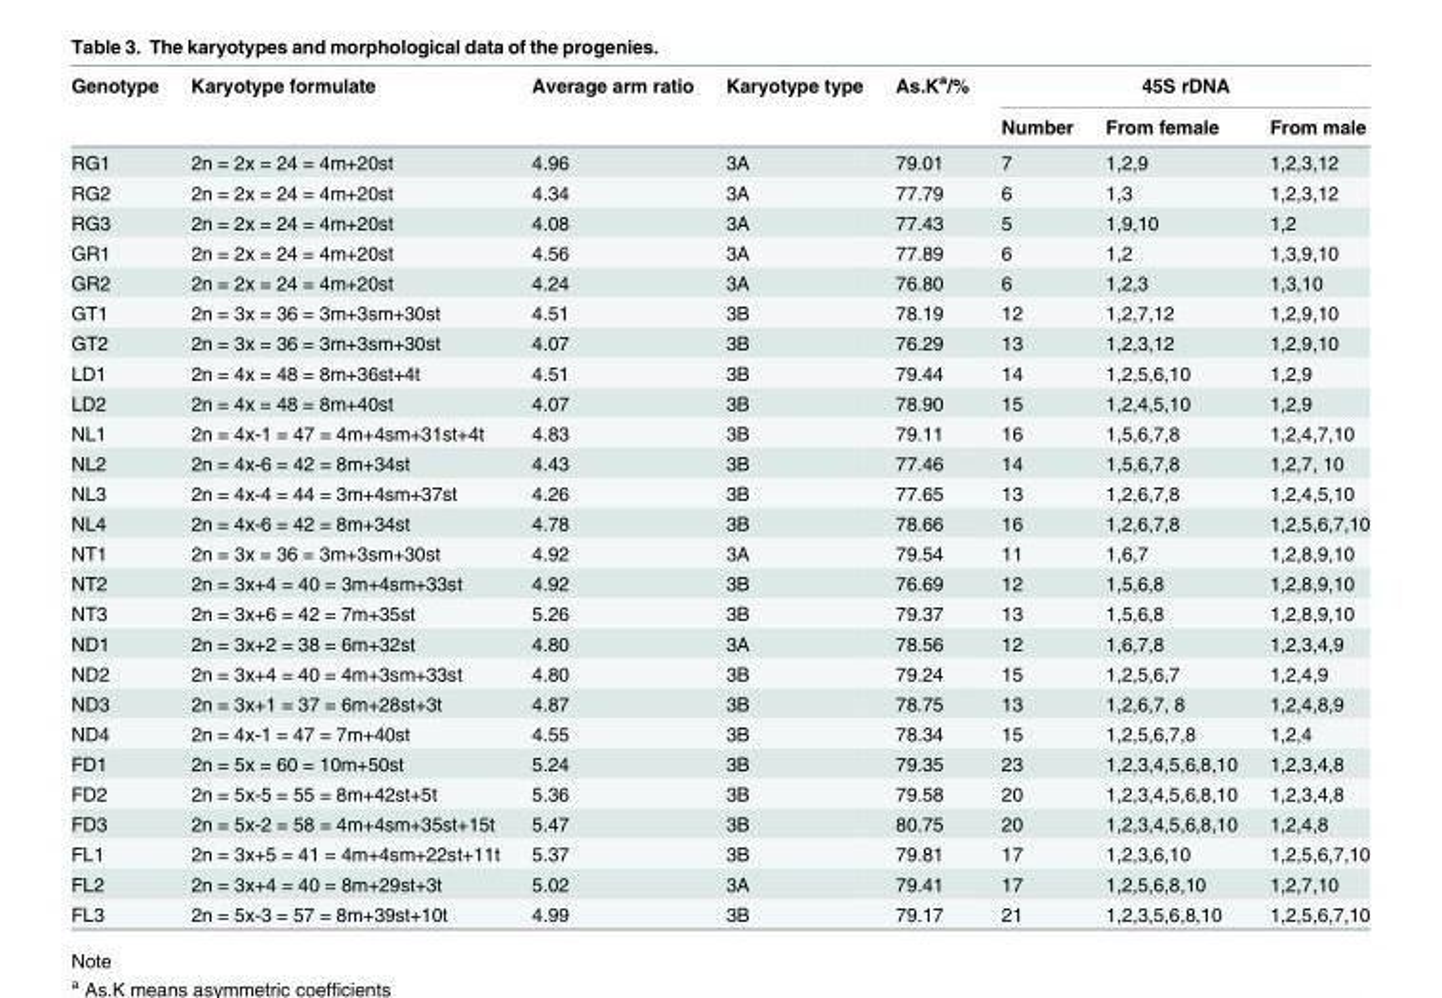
<table><thead><tr><td rowspan="2">Genotype</td><td rowspan="2">Karyotype formulate</td><td rowspan="2">Average arm ratio</td><td rowspan="2">Karyotype type</td><td rowspan="2">As.K<sup>a</sup>/%</td><td colspan="3">45S rDNA</td></tr><tr><td>Number</td><td>From female</td><td>From male</td></tr></thead><tbody><tr><td>RG1</td><td>2n = 2x = 24 = 4m+20st</td><td>4.96</td><td>3A</td><td>79.01</td><td>7</td><td>1,2,9</td><td>1,2,3,12</td></tr><tr><td>RG2</td><td>2n = 2x = 24 = 4m+20st</td><td>4.34</td><td>3A</td><td>77.79</td><td>6</td><td>1,3</td><td>1,2,3,12</td></tr><tr><td>RG3</td><td>2n = 2x = 24 = 4m+20st</td><td>4.08</td><td>3A</td><td>77.43</td><td>5</td><td>1,9,10</td><td>1,2</td></tr><tr><td>GR1</td><td>2n = 2x = 24 = 4m+20st</td><td>4.56</td><td>3A</td><td>77.89</td><td>6</td><td>1,2</td><td>1,3,9,10</td></tr><tr><td>GR2</td><td>2n = 2x = 24 = 4m+20st</td><td>4.24</td><td>3A</td><td>76.80</td><td>6</td><td>1,2,3</td><td>1,3,10</td></tr><tr><td>GT1</td><td>2n = 3x = 36 = 3m+3sm+30st</td><td>4.51</td><td>3B</td><td>78.19</td><td>12</td><td>1,2,7,12</td><td>1,2,9,10</td></tr><tr><td>GT2</td><td>2n = 3x = 36 = 3m+3sm+30st</td><td>4.07</td><td>3B</td><td>76.29</td><td>13</td><td>1,2,3,12</td><td>1,2,9,10</td></tr><tr><td>LD1</td><td>2n = 4x = 48 = 8m+36st+4t</td><td>4.51</td><td>3B</td><td>79.44</td><td>14</td><td>1,2,5,6,10</td><td>1,2,9</td></tr><tr><td>LD2</td><td>2n = 4x = 48 = 8m+40st</td><td>4.07</td><td>3B</td><td>78.90</td><td>15</td><td>1,2,4,5,10</td><td>1,2,9</td></tr><tr><td>NL1</td><td>2n = 4x-1 = 47 = 4m+4sm+31st+4t</td><td>4.83</td><td>3B</td><td>79.11</td><td>16</td><td>1,5,6,7,8</td><td>1,2,4,7,10</td></tr><tr><td>NL2</td><td>2n = 4x-6 = 42 = 8m+34st</td><td>4.43</td><td>3B</td><td>77.46</td><td>14</td><td>1,5,6,7,8</td><td>1,2,7, 10</td></tr><tr><td>NL3</td><td>2n = 4x-4 = 44 = 3m+4sm+37st</td><td>4.26</td><td>3B</td><td>77.65</td><td>13</td><td>1,2,6,7,8</td><td>1,2,4,5,10</td></tr><tr><td>NL4</td><td>2n = 4x-6 = 42 = 8m+34st</td><td>4.78</td><td>3B</td><td>78.66</td><td>16</td><td>1,2,6,7,8</td><td>1,2,5,6,7,10</td></tr><tr><td>NT1</td><td>2n = 3x = 36 = 3m+3sm+30st</td><td>4.92</td><td>3A</td><td>79.54</td><td>11</td><td>1,6,7</td><td>1,2,8,9,10</td></tr><tr><td>NT2</td><td>2n = 3x+4 = 40 = 3m+4sm+33st</td><td>4.92</td><td>3B</td><td>76.69</td><td>12</td><td>1,5,6,8</td><td>1,2,8,9,10</td></tr><tr><td>NT3</td><td>2n = 3x+6 = 42 = 7m+35st</td><td>5.26</td><td>3B</td><td>79.37</td><td>13</td><td>1,5,6,8</td><td>1,2,8,9,10</td></tr><tr><td>ND1</td><td>2n = 3x+2 = 38 = 6m+32st</td><td>4.80</td><td>3A</td><td>78.56</td><td>12</td><td>1,6,7,8</td><td>1,2,3,4,9</td></tr><tr><td>ND2</td><td>2n = 3x+4 = 40 = 4m+3sm+33st</td><td>4.80</td><td>3B</td><td>79.24</td><td>15</td><td>1,2,5,6,7</td><td>1,2,4,9</td></tr><tr><td>ND3</td><td>2n = 3x+1 = 37 = 6m+28st+3t</td><td>4.87</td><td>3B</td><td>78.75</td><td>13</td><td>1,2,6,7, 8</td><td>1,2,4,8,9</td></tr><tr><td>ND4</td><td>2n = 4x-1 = 47 = 7m+40st</td><td>4.55</td><td>3B</td><td>78.34</td><td>15</td><td>1,2,5,6,7,8</td><td>1,2,4</td></tr><tr><td>FD1</td><td>2n = 5x = 60 = 10m+50st</td><td>5.24</td><td>3B</td><td>79.35</td><td>23</td><td>1,2,3,4,5,6,8,10</td><td>1,2,3,4,8</td></tr><tr><td>FD2</td><td>2n = 5x-5 = 55 = 8m+42st+5t</td><td>5.36</td><td>3B</td><td>79.58</td><td>20</td><td>1,2,3,4,5,6,8,10</td><td>1,2,3,4,8</td></tr><tr><td>FD3</td><td>2n = 5x-2 = 58 = 4m+4sm+35st+15t</td><td>5.47</td><td>3B</td><td>80.75</td><td>20</td><td>1,2,3,4,5,6,8,10</td><td>1,2,4,8</td></tr><tr><td>FL1</td><td>2n = 3x+5 = 41 = 4m+4sm+22st+11t</td><td>5.37</td><td>3B</td><td>79.81</td><td>17</td><td>1,2,3,6,10</td><td>1,2,5,6,7,10</td></tr><tr><td>FL2</td><td>2n = 3x+4 = 40 = 8m+29st+3t</td><td>5.02</td><td>3A</td><td>79.41</td><td>17</td><td>1,2,5,6,8,10</td><td>1,2,7,10</td></tr><tr><td>FL3</td><td>2n = 5x-3 = 57 = 8m+39st+10t</td><td>4.99</td><td>3B</td><td>79.17</td><td>21</td><td>1,2,3,5,6,8,10</td><td>1,2,5,6,7,10</td></tr></tbody></table>